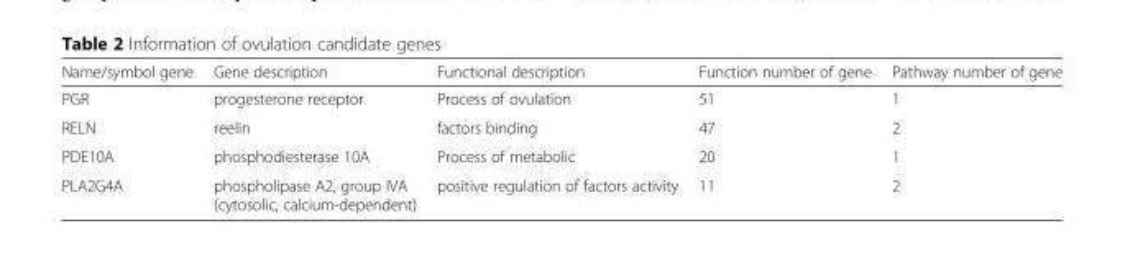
<table><thead><tr><td>Name/symbol gene</td><td>Gene description</td><td>Functional description</td><td>Function number of gene</td><td>Pathway number of gene</td></tr></thead><tbody><tr><td>PGR</td><td>progesterone receptor</td><td>Process of ovulation</td><td>51</td><td>1</td></tr><tr><td>RELN</td><td>reelin</td><td>factors binding</td><td>47</td><td>2</td></tr><tr><td>PDE10A</td><td>phosphodiesterase 10A</td><td>Process of metabolic</td><td>20</td><td>1</td></tr><tr><td>PLA2G4A</td><td>phospholipase A2, group IVA (cytosolic, calcium-dependent)</td><td>positive regulation of factors activity</td><td>11</td><td>2</td></tr></tbody></table>